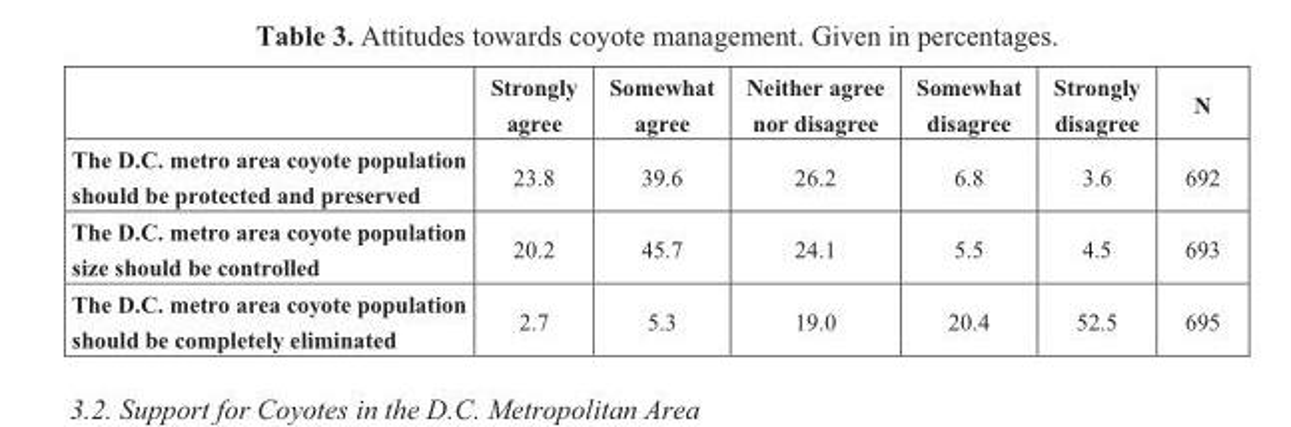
<table><thead><tr><td></td><td>Strongly agree</td><td>Somewhat agree</td><td>Neither agree nor disagree</td><td>Somewhat disagree</td><td>Strongly disagree</td><td>N</td></tr></thead><tbody><tr><td>The D.C. metro area coyote population should be protected and preserved</td><td>23.8</td><td>39.6</td><td>26.2</td><td>6.8</td><td>3.6</td><td>692</td></tr><tr><td>The D.C. metro area coyote population size should be controlled</td><td>20.2</td><td>45.7</td><td>24.1</td><td>5.5</td><td>4.5</td><td>693</td></tr><tr><td>The D.C. metro area coyote population should be completely eliminated</td><td>2.7</td><td>5.3</td><td>19.0</td><td>20.4</td><td>52.5</td><td>695</td></tr></tbody></table>